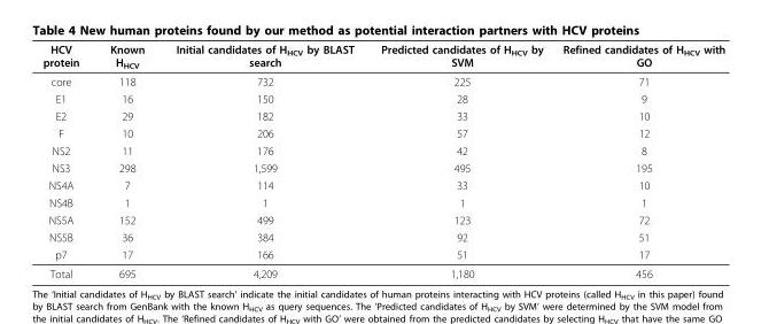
<table><thead><tr><td>HCV protein</td><td>Known H<sub>HCV</sub></td><td>Initial candidates of H<sub>HCV</sub> by BLAST search</td><td>Predicted candidates of H<sub>HCV</sub> by SVM</td><td>Refined candidates of H<sub>HCV</sub> with GO</td></tr></thead><tbody><tr><td>core</td><td>118</td><td>732</td><td>225</td><td>71</td></tr><tr><td>E1</td><td>16</td><td>150</td><td>28</td><td>9</td></tr><tr><td>E2</td><td>29</td><td>182</td><td>33</td><td>10</td></tr><tr><td>F</td><td>10</td><td>206</td><td>57</td><td>12</td></tr><tr><td>NS2</td><td>11</td><td>176</td><td>42</td><td>8</td></tr><tr><td>NS3</td><td>298</td><td>1,599</td><td>495</td><td>195</td></tr><tr><td>NS4A</td><td>7</td><td>114</td><td>33</td><td>10</td></tr><tr><td>NS4B</td><td>1</td><td>1</td><td>1</td><td>1</td></tr><tr><td>NS5A</td><td>152</td><td>499</td><td>123</td><td>72</td></tr><tr><td>NS5B</td><td>36</td><td>384</td><td>92</td><td>51</td></tr><tr><td>p7</td><td>17</td><td>166</td><td>51</td><td>17</td></tr><tr><td>Total</td><td>695</td><td>4,209</td><td>1,180</td><td>456</td></tr></tbody></table>